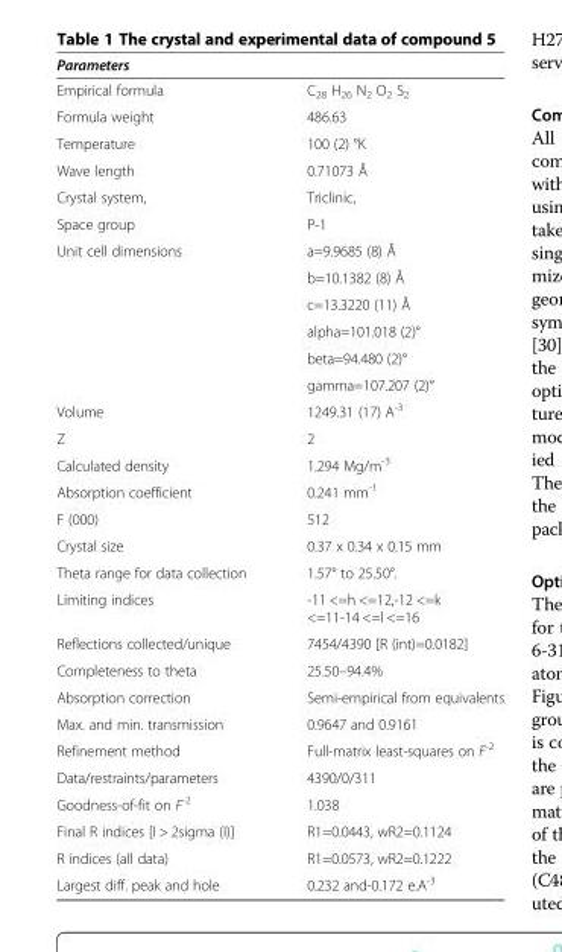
<table><thead><tr><td>Parameters</td><td></td></tr></thead><tbody><tr><td>Empirical formula</td><td>C<sub>28</sub> H<sub>26</sub> N<sub>2</sub> O<sub>2</sub> S<sub>2</sub></td></tr><tr><td>Formula weight</td><td>486.63</td></tr><tr><td>Temperature</td><td>100 (2) °K</td></tr><tr><td>Wave length</td><td>0.71073 Å</td></tr><tr><td>Crystal system,</td><td>Triclinic,</td></tr><tr><td>Space group</td><td>P-1</td></tr><tr><td rowspan="6">Unit cell dimensions</td><td>a=9.9685 (8) Å</td></tr><tr><td>b=10.1382 (8) Å</td></tr><tr><td>c=13.3220 (11) Å</td></tr><tr><td>alpha=101.018 (2)°</td></tr><tr><td>beta=94.480 (2)°</td></tr><tr><td>gamma=107.207 (2)°</td></tr><tr><td>Volume</td><td>1249.31 (17) A<sup>-3</sup></td></tr><tr><td>Z</td><td>2</td></tr><tr><td>Calculated density</td><td>1.294 Mg/m<sup>-3</sup></td></tr><tr><td>Absorption coefficient</td><td>0.241 mm<sup>-1</sup></td></tr><tr><td>F (000)</td><td>512</td></tr><tr><td>Crystal size</td><td>0.37 x 0.34 x 0.15 mm</td></tr><tr><td>Theta range for data collection</td><td>1.57° to 25.50°.</td></tr><tr><td>Limiting indices</td><td>-11 &lt;=h &lt;=12,-12 &lt;=k &lt;=11-14 &lt;=l &lt;=16</td></tr><tr><td>Reflections collected/unique</td><td>7454/4390 [R (int)=0.0182]</td></tr><tr><td>Completeness to theta</td><td>25.50–94.4%</td></tr><tr><td>Absorption correction</td><td>Semi-empirical from equivalents</td></tr><tr><td>Max. and min. transmission</td><td>0.9647 and 0.9161</td></tr><tr><td>Refinement method</td><td>Full-matrix least-squares on F<sup>-2</sup></td></tr><tr><td>Data/restraints/parameters</td><td>4390/0/311</td></tr><tr><td>Goodness-of-fit on F<sup>-2</sup></td><td>1.038</td></tr><tr><td>Final R indices [I &gt; 2sigma (I)]</td><td>R1=0.0443, wR2=0.1124</td></tr><tr><td>R indices (all data)</td><td>R1=0.0573, wR2=0.1222</td></tr><tr><td>Largest diff. peak and hole</td><td>0.232 and-0.172 e.A<sup>-3</sup></td></tr></tbody></table>